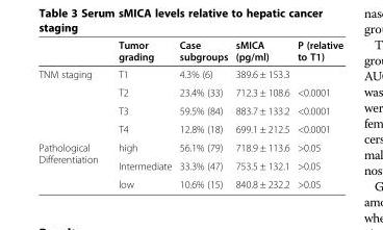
<table><thead><tr><td></td><td>Tumor grading</td><td>Case subgroups</td><td>sMICA (pg/ml)</td><td>P (relative to T1)</td></tr></thead><tbody><tr><td rowspan="4">TNM staging</td><td>T1</td><td>4.3% (6)</td><td>389.6 ± 153.3</td><td></td></tr><tr><td>T2</td><td>23.4% (33)</td><td>712.3 ± 108.6</td><td>&lt;0.0001</td></tr><tr><td>T3</td><td>59.5% (84)</td><td>883.7 ± 133.2</td><td>&lt;0.0001</td></tr><tr><td>T4</td><td>12.8% (18)</td><td>699.1 ± 212.5</td><td>&lt;0.0001</td></tr><tr><td rowspan="3">Pathological Differentiation</td><td>high</td><td>56.1% (79)</td><td>718.9 ± 113.6</td><td>&gt;0.05</td></tr><tr><td>Intermediate</td><td>33.3% (47)</td><td>753.5 ± 132.1</td><td>&gt;0.05</td></tr><tr><td>low</td><td>10.6% (15)</td><td>840.8 ± 232.2</td><td>&gt;0.05</td></tr></tbody></table>